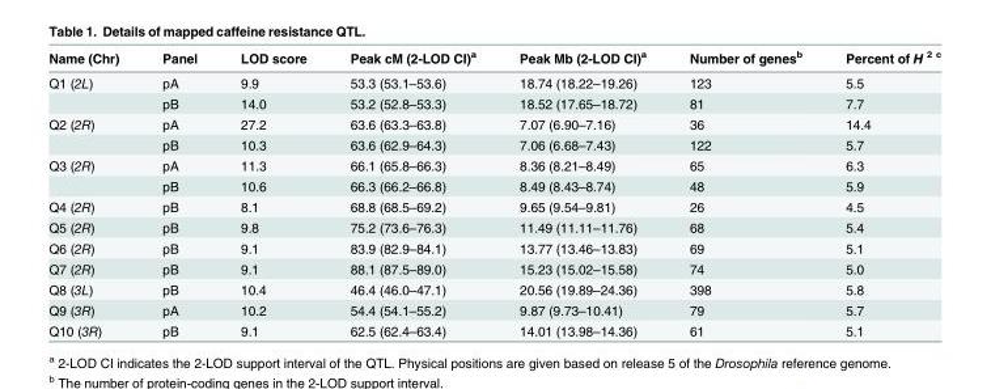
<table><thead><tr><td>Name (Chr)</td><td>Panel</td><td>LOD score</td><td>Peak cM (2-LOD CI)<sup>a</sup></td><td>Peak Mb (2-LOD CI)<sup>a</sup></td><td>Number of genes<sup>b</sup></td><td>Percent of H <sup>2 c</sup></td></tr></thead><tbody><tr><td rowspan="2">Q1 (2L)</td><td>pA</td><td>9.9</td><td>53.3 (53.1–53.6)</td><td>18.74 (18.22–19.26)</td><td>123</td><td>5.5</td></tr><tr><td>pB</td><td>14.0</td><td>53.2 (52.8–53.3)</td><td>18.52 (17.65–18.72)</td><td>81</td><td>7.7</td></tr><tr><td rowspan="2">Q2 (2R)</td><td>pA</td><td>27.2</td><td>63.6 (63.3–63.8)</td><td>7.07 (6.90–7.16)</td><td>36</td><td>14.4</td></tr><tr><td>pB</td><td>10.3</td><td>63.6 (62.9–64.3)</td><td>7.06 (6.68–7.43)</td><td>122</td><td>5.7</td></tr><tr><td rowspan="2">Q3 (2R)</td><td>pA</td><td>11.3</td><td>66.1 (65.8–66.3)</td><td>8.36 (8.21–8.49)</td><td>65</td><td>6.3</td></tr><tr><td>pB</td><td>10.6</td><td>66.3 (66.2–66.8)</td><td>8.49 (8.43–8.74)</td><td>48</td><td>5.9</td></tr><tr><td>Q4 (2R)</td><td>pB</td><td>8.1</td><td>68.8 (68.5–69.2)</td><td>9.65 (9.54–9.81)</td><td>26</td><td>4.5</td></tr><tr><td>Q5 (2R)</td><td>pB</td><td>9.8</td><td>75.2 (73.6–76.3)</td><td>11.49 (11.11–11.76)</td><td>68</td><td>5.4</td></tr><tr><td>Q6 (2R)</td><td>pB</td><td>9.1</td><td>83.9 (82.9–84.1)</td><td>13.77 (13.46–13.83)</td><td>69</td><td>5.1</td></tr><tr><td>Q7 (2R)</td><td>pB</td><td>9.1</td><td>88.1 (87.5–89.0)</td><td>15.23 (15.02–15.58)</td><td>74</td><td>5.0</td></tr><tr><td>Q8 (3L)</td><td>pB</td><td>10.4</td><td>46.4 (46.0–47.1)</td><td>20.56 (19.89–24.36)</td><td>398</td><td>5.8</td></tr><tr><td>Q9 (3R)</td><td>pA</td><td>10.2</td><td>54.4 (54.1–55.2)</td><td>9.87 (9.73–10.41)</td><td>79</td><td>5.7</td></tr><tr><td>Q10 (3R)</td><td>pB</td><td>9.1</td><td>62.5 (62.4–63.4)</td><td>14.01 (13.98–14.36)</td><td>61</td><td>5.1</td></tr></tbody></table>